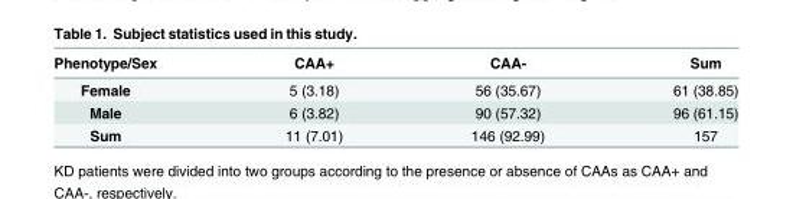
<table><thead><tr><td>Phenotype/Sex</td><td>CAA+</td><td>CAA-</td><td>Sum</td></tr></thead><tbody><tr><td>Female</td><td>5 (3.18)</td><td>56 (35.67)</td><td>61 (38.85)</td></tr><tr><td>Male</td><td>6 (3.82)</td><td>90 (57.32)</td><td>96 (61.15)</td></tr><tr><td>Sum</td><td>11 (7.01)</td><td>146 (92.99)</td><td>157</td></tr></tbody></table>